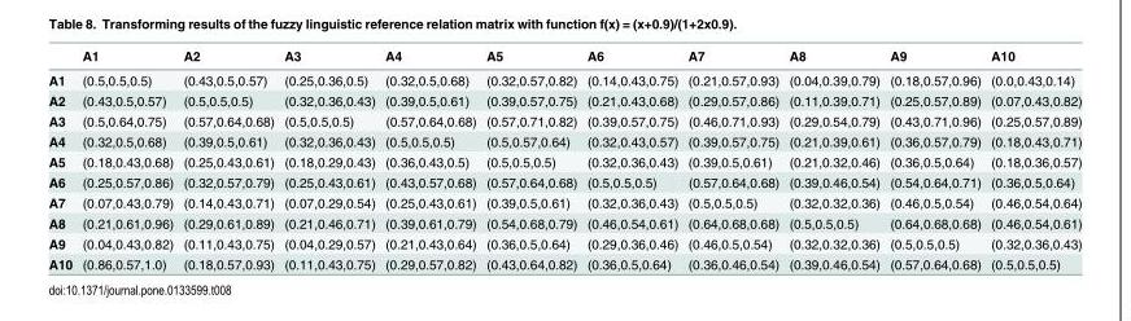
<table><thead><tr><td></td><td>A1</td><td>A2</td><td>A3</td><td>A4</td><td>A5</td><td>A6</td><td>A7</td><td>A8</td><td>A9</td><td>A10</td></tr></thead><tbody><tr><td>A1</td><td>(0.5,0.5,0.5)</td><td>(0.43,0.5,0.57)</td><td>(0.25,0.36,0.5)</td><td>(0.32,0.5,0.68)</td><td>(0.32,0.57,0.82)</td><td>(0.14,0.43,0.75)</td><td>(0.21,0.57,0.93)</td><td>(0.04,0.39,0.79)</td><td>(0.18,0.57,0.96)</td><td>(0.0,0.43,0.14)</td></tr><tr><td>A2</td><td>(0.43,0.5,0.57)</td><td>(0.5,0.5,0.5)</td><td>(0.32,0.36,0.43)</td><td>(0.39,0.5,0.61)</td><td>(0.39,0.57,0.75)</td><td>(0.21,0.43,0.68)</td><td>(0.29,0.57,0.86)</td><td>(0.11,0.39,0.71)</td><td>(0.25,0.57,0.89)</td><td>(0.07,0.43,0.82)</td></tr><tr><td>A3</td><td>(0.5,0.64,0.75)</td><td>(0.57,0.64,0.68)</td><td>(0.5,0.5,0.5)</td><td>(0.57,0.64,0.68)</td><td>(0.57,0.71,0.82)</td><td>(0.39,0.57,0.75)</td><td>(0.46,0.71,0.93)</td><td>(0.29,0.54,0.79)</td><td>(0.43,0.71,0.96)</td><td>(0.25,0.57,0.89)</td></tr><tr><td>A4</td><td>(0.32,0.5,0.68)</td><td>(0.39,0.5,0.61)</td><td>(0.32,0.36,0.43)</td><td>(0.5,0.5,0.5)</td><td>(0.5,0.57,0.64)</td><td>(0.32,0.43,0.57)</td><td>(0.39,0.57,0.75)</td><td>(0.21,0.39,0.61)</td><td>(0.36,0.57,0.79)</td><td>(0.18,0.43,0.71)</td></tr><tr><td>A5</td><td>(0.18,0.43,0.68)</td><td>(0.25,0.43,0.61)</td><td>(0.18,0.29,0.43)</td><td>(0.36,0.43,0.5)</td><td>(0.5,0.5,0.5)</td><td>(0.32,0.36,0.43)</td><td>(0.39,0.5,0.61)</td><td>(0.21,0.32,0.46)</td><td>(0.36,0.5,0.64)</td><td>(0.18,0.36,0.57)</td></tr><tr><td>A6</td><td>(0.25,0.57,0.86)</td><td>(0.32,0.57,0.79)</td><td>(0.25,0.43,0.61)</td><td>(0.43,0.57,0.68)</td><td>(0.57,0.64,0.68)</td><td>(0.5,0.5,0.5)</td><td>(0.57,0.64,0.68)</td><td>(0.39,0.46,0.54)</td><td>(0.54,0.64,0.71)</td><td>(0.36,0.5,0.64)</td></tr><tr><td>A7</td><td>(0.07,0.43,0.79)</td><td>(0.14,0.43,0.71)</td><td>(0.07,0.29,0.54)</td><td>(0.25,0.43,0.61)</td><td>(0.39,0.5,0.61)</td><td>(0.32,0.36,0.43)</td><td>(0.5,0.5,0.5)</td><td>(0.32,0.32,0.36)</td><td>(0.46,0.5,0.54)</td><td>(0.46,0.54,0.64)</td></tr><tr><td>A8</td><td>(0.21,0.61,0.96)</td><td>(0.29,0.61,0.89)</td><td>(0.21,0.46,0.71)</td><td>(0.39,0.61,0.79)</td><td>(0.54,0.68,0.79)</td><td>(0.46,0.54,0.61)</td><td>(0.64,0.68,0.68)</td><td>(0.5,0.5,0.5)</td><td>(0.64,0.68,0.68)</td><td>(0.46,0.54,0.61)</td></tr><tr><td>A9</td><td>(0.04,0.43,0.82)</td><td>(0.11,0.43,0.75)</td><td>(0.04,0.29,0.57)</td><td>(0.21,0.43,0.64)</td><td>(0.36,0.5,0.64)</td><td>(0.29,0.36,0.46)</td><td>(0.46,0.5,0.54)</td><td>(0.32,0.32,0.36)</td><td>(0.5,0.5,0.5)</td><td>(0.32,0.36,0.43)</td></tr><tr><td>A10</td><td>(0.86,0.57,1.0)</td><td>(0.18,0.57,0.93)</td><td>(0.11,0.43,0.75)</td><td>(0.29,0.57,0.82)</td><td>(0.43,0.64,0.82)</td><td>(0.36,0.5,0.64)</td><td>(0.36,0.46,0.54)</td><td>(0.39,0.46,0.54)</td><td>(0.57,0.64,0.68)</td><td>(0.5,0.5,0.5)</td></tr></tbody></table>